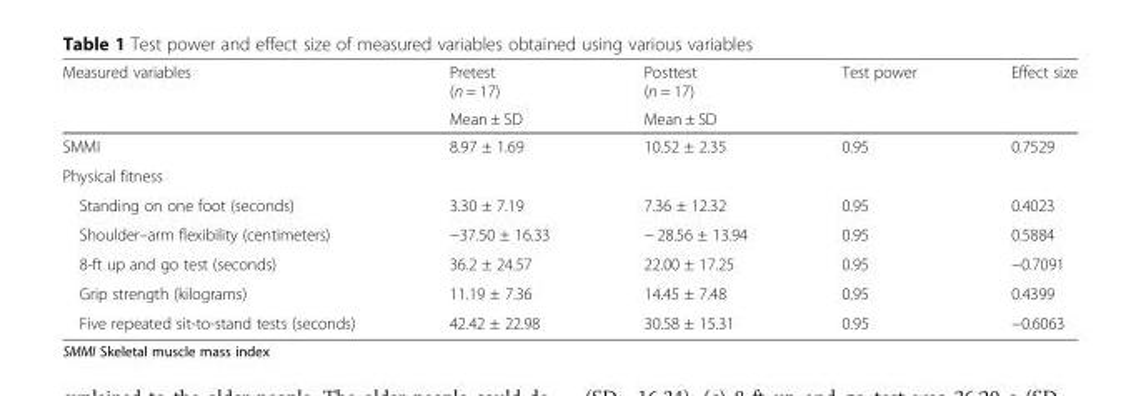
<table><thead><tr><td rowspan="2">Measured variables</td><td rowspan="2">Pretest (n = 17) Mean ± SD</td><td rowspan="2">Posttest (n = 17) Mean ± SD</td><td rowspan="2">Test power</td><td rowspan="2">Effect size</td></tr><tr></tr></thead><tbody><tr><td>SMMI</td><td>8.97 ± 1.69</td><td>10.52 ± 2.35</td><td>0.95</td><td>0.7529</td></tr><tr><td colspan="5">Physical fitness</td></tr><tr><td>Standing on one foot (seconds)</td><td>3.30 ± 7.19</td><td>7.36 ± 12.32</td><td>0.95</td><td>0.4023</td></tr><tr><td>Shoulder–arm flexibility (centimeters)</td><td>−37.50 ± 16.33</td><td>− 28.56 ± 13.94</td><td>0.95</td><td>0.5884</td></tr><tr><td>8-ft up and go test (seconds)</td><td>36.2 ± 24.57</td><td>22.00 ± 17.25</td><td>0.95</td><td>−0.7091</td></tr><tr><td>Grip strength (kilograms)</td><td>11.19 ± 7.36</td><td>14.45 ± 7.48</td><td>0.95</td><td>0.4399</td></tr><tr><td>Five repeated sit-to-stand tests (seconds)</td><td>42.42 ± 22.98</td><td>30.58 ± 15.31</td><td>0.95</td><td>−0.6063</td></tr></tbody></table>